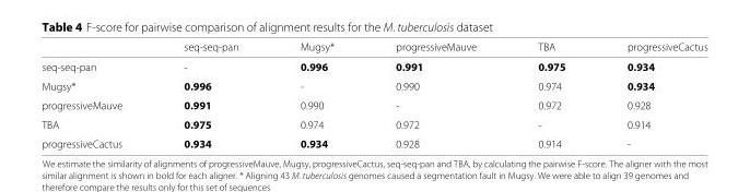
<table><thead><tr><td></td><td>seq-seq-pan</td><td>Mugsy*</td><td>progressiveMauve</td><td>TBA</td><td>progressiveCactus</td></tr></thead><tbody><tr><td>seq-seq-pan</td><td>-</td><td>0.996</td><td>0.991</td><td>0.975</td><td>0.934</td></tr><tr><td>Mugsy*</td><td>0.996</td><td>-</td><td>0.990</td><td>0.974</td><td>0.934</td></tr><tr><td>progressiveMauve</td><td>0.991</td><td>0.990</td><td>-</td><td>0.972</td><td>0.928</td></tr><tr><td>TBA</td><td>0.975</td><td>0.974</td><td>0.972</td><td>-</td><td>0.914</td></tr><tr><td>progressiveCactus</td><td>0.934</td><td>0.934</td><td>0.928</td><td>0.914</td><td>-</td></tr></tbody></table>